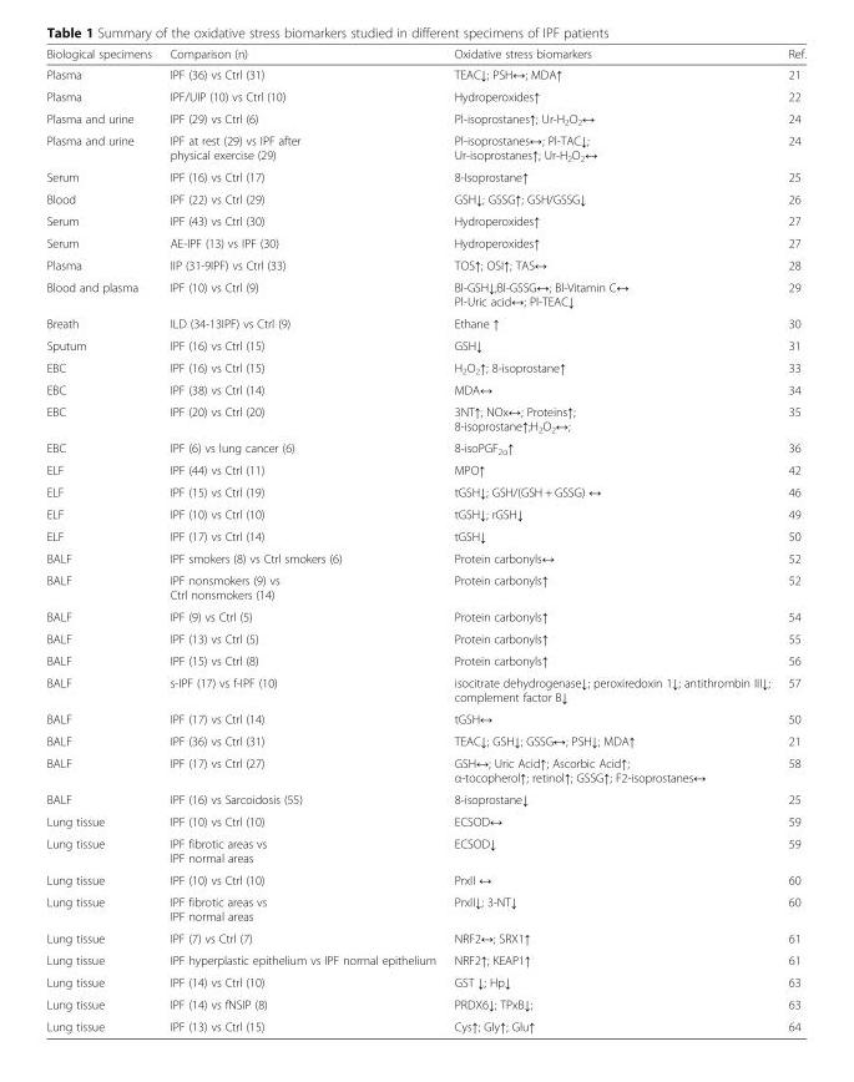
<table><thead><tr><td>Biological specimens</td><td>Comparison (n)</td><td>Oxidative stress biomarkers</td><td>Ref.</td></tr></thead><tbody><tr><td>Plasma</td><td>IPF (36) vs Ctrl (31)</td><td>TEAC↓; PSH↔; MDA↑</td><td>21</td></tr><tr><td>Plasma</td><td>IPF/UIP (10) vs Ctrl (10)</td><td>Hydroperoxides↑</td><td>22</td></tr><tr><td>Plasma and urine</td><td>IPF (29) vs Ctrl (6)</td><td>Pl-isoprostanes↑; Ur-H<sub>2</sub>O<sub>2</sub>↔</td><td>24</td></tr><tr><td>Plasma and urine</td><td>IPF at rest (29) vs IPF after physical exercise (29)</td><td>Pl-isoprostanes↔; Pl-TAC↓; Ur-isoprostanes↑; Ur-H<sub>2</sub>O<sub>2</sub>↔</td><td>24</td></tr><tr><td>Serum</td><td>IPF (16) vs Ctrl (17)</td><td>8-Isoprostane↑</td><td>25</td></tr><tr><td>Blood</td><td>IPF (22) vs Ctrl (29)</td><td>GSH↓; GSSG↑; GSH/GSSG↓</td><td>26</td></tr><tr><td>Serum</td><td>IPF (43) vs Ctrl (30)</td><td>Hydroperoxides↑</td><td>27</td></tr><tr><td>Serum</td><td>AE-IPF (13) vs IPF (30)</td><td>Hydroperoxides↑</td><td>27</td></tr><tr><td>Plasma</td><td>IIP (31-9IPF) vs Ctrl (33)</td><td>TOS↑; OSI↑; TAS↔</td><td>28</td></tr><tr><td>Blood and plasma</td><td>IPF (10) vs Ctrl (9)</td><td>Bl-GSH↓;Bl-GSSG↔; Bl-Vitamin C↔ Pl-Uric acid↔; Pl-TEAC↓</td><td>29</td></tr><tr><td>Breath</td><td>ILD (34-13IPF) vs Ctrl (9)</td><td>Ethane ↑</td><td>30</td></tr><tr><td>Sputum</td><td>IPF (16) vs Ctrl (15)</td><td>GSH↓</td><td>31</td></tr><tr><td>EBC</td><td>IPF (16) vs Ctrl (15)</td><td>H<sub>2</sub>O<sub>2</sub>↑; 8-isoprostane↑</td><td>33</td></tr><tr><td>EBC</td><td>IPF (38) vs Ctrl (14)</td><td>MDA↔</td><td>34</td></tr><tr><td>EBC</td><td>IPF (20) vs Ctrl (20)</td><td>3NT↑; NOx↔; Proteins↑; 8-isoprostane↑;H<sub>2</sub>O<sub>2</sub>↔;</td><td>35</td></tr><tr><td>EBC</td><td>IPF (6) vs lung cancer (6)</td><td>8-isoPGF<sub>2α</sub>↑</td><td>36</td></tr><tr><td>ELF</td><td>IPF (44) vs Ctrl (11)</td><td>MPO↑</td><td>42</td></tr><tr><td>ELF</td><td>IPF (15) vs Ctrl (19)</td><td>tGSH↓; GSH/(GSH + GSSG) ↔</td><td>46</td></tr><tr><td>ELF</td><td>IPF (10) vs Ctrl (10)</td><td>tGSH↓; rGSH↓</td><td>49</td></tr><tr><td>ELF</td><td>IPF (17) vs Ctrl (14)</td><td>tGSH↓</td><td>50</td></tr><tr><td>BALF</td><td>IPF smokers (8) vs Ctrl smokers (6)</td><td>Protein carbonyls↔</td><td>52</td></tr><tr><td>BALF</td><td>IPF nonsmokers (9) vs Ctrl nonsmokers (14)</td><td>Protein carbonyls↑</td><td>52</td></tr><tr><td>BALF</td><td>IPF (9) vs Ctrl (5)</td><td>Protein carbonyls↑</td><td>54</td></tr><tr><td>BALF</td><td>IPF (13) vs Ctrl (5)</td><td>Protein carbonyls↑</td><td>55</td></tr><tr><td>BALF</td><td>IPF (15) vs Ctrl (8)</td><td>Protein carbonyls↑</td><td>56</td></tr><tr><td>BALF</td><td>s-IPF (17) vs f-IPF (10)</td><td>isocitrate dehydrogenase↓; peroxiredoxin 1↓; antithrombin III↓; complement factor B↓</td><td>57</td></tr><tr><td>BALF</td><td>IPF (17) vs Ctrl (14)</td><td>tGSH↔</td><td>50</td></tr><tr><td>BALF</td><td>IPF (36) vs Ctrl (31)</td><td>TEAC↓; GSH↓; GSSG↔; PSH↓; MDA↑</td><td>21</td></tr><tr><td>BALF</td><td>IPF (17) vs Ctrl (27)</td><td>GSH↔; Uric Acid↑; Ascorbic Acid↑; α-tocopherol↑; retinol↑; GSSG↑; F2-isoprostanes↔</td><td>58</td></tr><tr><td>BALF</td><td>IPF (16) vs Sarcoidosis (55)</td><td>8-isoprostane↓</td><td>25</td></tr><tr><td>Lung tissue</td><td>IPF (10) vs Ctrl (10)</td><td>ECSOD↔</td><td>59</td></tr><tr><td>Lung tissue</td><td>IPF fibrotic areas vs IPF normal areas</td><td>ECSOD↓</td><td>59</td></tr><tr><td>Lung tissue</td><td>IPF (10) vs Ctrl (10)</td><td>PrxII ↔</td><td>60</td></tr><tr><td>Lung tissue</td><td>IPF fibrotic areas vs IPF normal areas</td><td>PrxII↓; 3-NT↓</td><td>60</td></tr><tr><td>Lung tissue</td><td>IPF (7) vs Ctrl (7)</td><td>NRF2↔; SRX1↑</td><td>61</td></tr><tr><td>Lung tissue</td><td>IPF hyperplastic epithelium vs IPF normal epithelium</td><td>NRF2↑; KEAP1↑</td><td>61</td></tr><tr><td>Lung tissue</td><td>IPF (14) vs Ctrl (10)</td><td>GST ↓; Hp↓</td><td>63</td></tr><tr><td>Lung tissue</td><td>IPF (14) vs fNSIP (8)</td><td>PRDX6↓; TPxB↓;</td><td>63</td></tr><tr><td>Lung tissue</td><td>IPF (13) vs Ctrl (15)</td><td>Cys↑; Gly↑; Glu↑</td><td>64</td></tr></tbody></table>